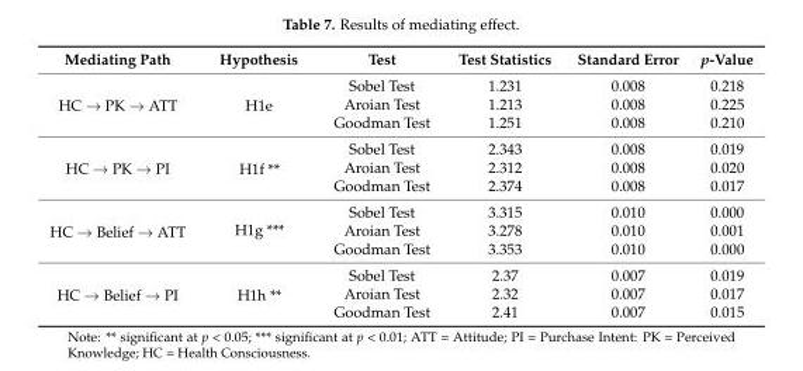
<table><thead><tr><td>Mediating Path</td><td>Hypothesis</td><td>Test</td><td>Test Statistics</td><td>Standard Error</td><td>p-Value</td></tr></thead><tbody><tr><td rowspan="3">HC → PK → ATT</td><td rowspan="3">H1e</td><td>Sobel Test</td><td>1.231</td><td>0.008</td><td>0.218</td></tr><tr><td>Aroian Test</td><td>1.213</td><td>0.008</td><td>0.225</td></tr><tr><td>Goodman Test</td><td>1.251</td><td>0.008</td><td>0.210</td></tr><tr><td rowspan="3">HC → PK → PI</td><td rowspan="3">H1f **</td><td>Sobel Test</td><td>2.343</td><td>0.008</td><td>0.019</td></tr><tr><td>Aroian Test</td><td>2.312</td><td>0.008</td><td>0.020</td></tr><tr><td>Goodman Test</td><td>2.374</td><td>0.008</td><td>0.017</td></tr><tr><td rowspan="3">HC → Belief → ATT</td><td rowspan="3">H1g ***</td><td>Sobel Test</td><td>3.315</td><td>0.010</td><td>0.000</td></tr><tr><td>Aroian Test</td><td>3.278</td><td>0.010</td><td>0.001</td></tr><tr><td>Goodman Test</td><td>3.353</td><td>0.010</td><td>0.000</td></tr><tr><td rowspan="3">HC → Belief → PI</td><td rowspan="3">H1h **</td><td>Sobel Test</td><td>2.37</td><td>0.007</td><td>0.019</td></tr><tr><td>Aroian Test</td><td>2.32</td><td>0.007</td><td>0.017</td></tr><tr><td>Goodman Test</td><td>2.41</td><td>0.007</td><td>0.015</td></tr></tbody></table>